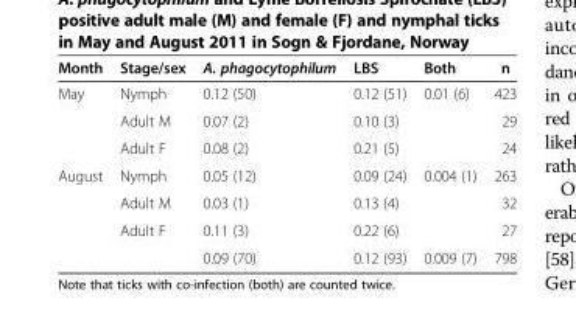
<table><thead><tr><td>Month</td><td>Stage/sex</td><td>A. phagocytophilum</td><td>LBS</td><td>Both</td><td>n</td></tr></thead><tbody><tr><td rowspan="3">May</td><td>Nymph</td><td>0.12 (50)</td><td>0.12 (51)</td><td>0.01 (6)</td><td>423</td></tr><tr><td>Adult M</td><td>0.07 (2)</td><td>0.10 (3)</td><td></td><td>29</td></tr><tr><td>Adult F</td><td>0.08 (2)</td><td>0.21 (5)</td><td></td><td>24</td></tr><tr><td rowspan="4">August</td><td>Nymph</td><td>0.05 (12)</td><td>0.09 (24)</td><td>0.004 (1)</td><td>263</td></tr><tr><td>Adult M</td><td>0.03 (1)</td><td>0.13 (4)</td><td></td><td>32</td></tr><tr><td>Adult F</td><td>0.11 (3)</td><td>0.22 (6)</td><td></td><td>27</td></tr><tr><td></td><td>0.09 (70)</td><td>0.12 (93)</td><td>0.009 (7)</td><td>798</td></tr></tbody></table>